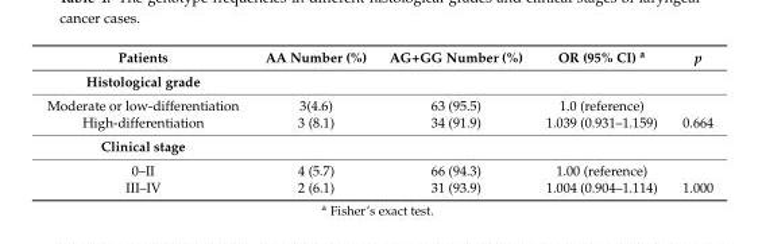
<table><thead><tr><td>Patients</td><td>AA Number (%)</td><td>AG+GG Number (%)</td><td>OR (95% CI) <sup>a</sup></td><td>p</td></tr></thead><tbody><tr><td colspan="5">Histological grade</td></tr><tr><td>Moderate or low-differentiation</td><td>3(4.6)</td><td>63 (95.5)</td><td>1.0 (reference)</td><td></td></tr><tr><td>High-differentiation</td><td>3 (8.1)</td><td>34 (91.9)</td><td>1.039 (0.931–1.159)</td><td>0.664</td></tr><tr><td colspan="5">Clinical stage</td></tr><tr><td>0–II</td><td>4 (5.7)</td><td>66 (94.3)</td><td>1.00 (reference)</td><td></td></tr><tr><td>III–IV</td><td>2 (6.1)</td><td>31 (93.9)</td><td>1.004 (0.904–1.114)</td><td>1.000</td></tr></tbody></table>